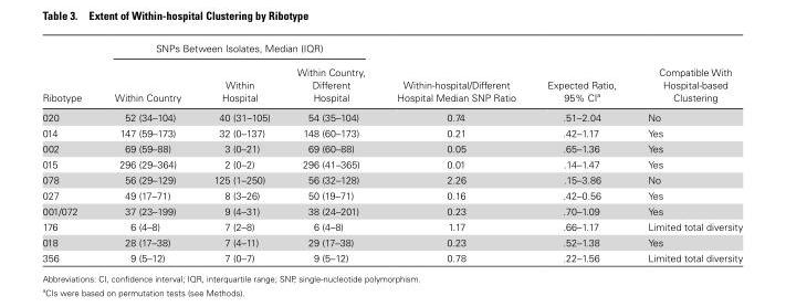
<table><thead><tr><td rowspan="2">Ribotype</td><td colspan="3">SNPs Between Isolates, Median (IQR)</td><td rowspan="2">Within-hospital/Different Hospital Median SNP Ratio</td><td rowspan="2">Expected Ratio, 95% CI<sup>a</sup></td><td rowspan="2">Compatible With Hospital-based Clustering</td></tr><tr><td>Within Country</td><td>Within Hospital</td><td>Within Country, Different Hospital</td></tr></thead><tbody><tr><td>020</td><td>52 (34–104)</td><td>40 (31–105)</td><td>54 (35–104)</td><td>0.74</td><td>.51–2.04</td><td>No</td></tr><tr><td>014</td><td>147 (59–173)</td><td>32 (0–137)</td><td>148 (60–173)</td><td>0.21</td><td>.42–1.17</td><td>Yes</td></tr><tr><td>002</td><td>69 (59–88)</td><td>3 (0–21)</td><td>69 (60–88)</td><td>0.05</td><td>.65–1.36</td><td>Yes</td></tr><tr><td>015</td><td>296 (29–364)</td><td>2 (0–2)</td><td>296 (41–365)</td><td>0.01</td><td>.14–1.47</td><td>Yes</td></tr><tr><td>078</td><td>56 (29–129)</td><td>125 (1–250)</td><td>56 (32–128)</td><td>2.26</td><td>.15–3.86</td><td>No</td></tr><tr><td>027</td><td>49 (17–71)</td><td>8 (3–26)</td><td>50 (19–71)</td><td>0.16</td><td>.42–0.56</td><td>Yes</td></tr><tr><td>001/072</td><td>37 (23–199)</td><td>9 (4–31)</td><td>38 (24–201)</td><td>0.23</td><td>.70–1.09</td><td>Yes</td></tr><tr><td>176</td><td>6 (4–8)</td><td>7 (2–8)</td><td>6 (4–8)</td><td>1.17</td><td>.66–1.17</td><td>Limited total diversity</td></tr><tr><td>018</td><td>28 (17–38)</td><td>7 (4–11)</td><td>29 (17–38)</td><td>0.23</td><td>.52–1.38</td><td>Yes</td></tr><tr><td>356</td><td>9 (5–12)</td><td>7 (0–7)</td><td>9 (5–12)</td><td>0.78</td><td>.22–1.56</td><td>Limited total diversity</td></tr></tbody></table>